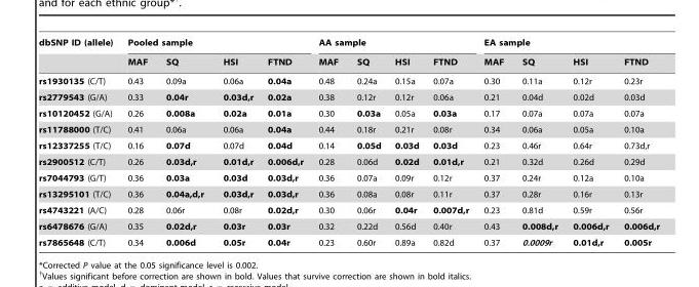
<table><thead><tr><td rowspan="2">dbSNP ID (allele)</td><td colspan="4">Pooled sample</td><td colspan="4">AA sample</td><td colspan="4">EA sample</td></tr><tr><td>MAF</td><td>SQ</td><td>HSI</td><td>FTND</td><td>MAF</td><td>SQ</td><td>HSI</td><td>FTND</td><td>MAF</td><td>SQ</td><td>HSI</td><td>FTND</td></tr></thead><tbody><tr><td>rs1930135 (C/T)</td><td>0.43</td><td>0.09a</td><td>0.06a</td><td>0.04a</td><td>0.48</td><td>0.24a</td><td>0.15a</td><td>0.07a</td><td>0.30</td><td>0.11a</td><td>0.12r</td><td>0.23r</td></tr><tr><td>rs2779543 (G/A)</td><td>0.33</td><td>0.04r</td><td>0.03d,r</td><td>0.02a</td><td>0.38</td><td>0.12r</td><td>0.12r</td><td>0.06a</td><td>0.21</td><td>0.04d</td><td>0.02d</td><td>0.03d</td></tr><tr><td>rs10120452 (G/A)</td><td>0.26</td><td>0.008a</td><td>0.02a</td><td>0.01a</td><td>0.30</td><td>0.03a</td><td>0.05a</td><td>0.03a</td><td>0.17</td><td>0.07a</td><td>0.07a</td><td>0.07a</td></tr><tr><td>rs11788000 (T/C)</td><td>0.41</td><td>0.06a</td><td>0.06a</td><td>0.04a</td><td>0.44</td><td>0.18r</td><td>0.21r</td><td>0.08r</td><td>0.34</td><td>0.06a</td><td>0.05a</td><td>0.10a</td></tr><tr><td>rs12337255 (T/C)</td><td>0.16</td><td>0.07d</td><td>0.07d</td><td>0.04d</td><td>0.14</td><td>0.05d</td><td>0.03d</td><td>0.03d</td><td>0.23</td><td>0.46r</td><td>0.64r</td><td>0.73d,r</td></tr><tr><td>rs2900512 (C/T)</td><td>0.26</td><td>0.03d,r</td><td>0.01d,r</td><td>0.006d,r</td><td>0.28</td><td>0.06d</td><td>0.02d</td><td>0.01d,r</td><td>0.21</td><td>0.32d</td><td>0.26d</td><td>0.29d</td></tr><tr><td>rs7044793 (G/T)</td><td>0.36</td><td>0.03a</td><td>0.03d</td><td>0.03d,r</td><td>0.36</td><td>0.07a</td><td>0.09r</td><td>0.12r</td><td>0.37</td><td>0.24r</td><td>0.12a</td><td>0.10a</td></tr><tr><td>rs13295101 (T/C)</td><td>0.36</td><td>0.04a,d,r</td><td>0.03d,r</td><td>0.03d,r</td><td>0.36</td><td>0.08a</td><td>0.08r</td><td>0.11r</td><td>0.37</td><td>0.28r</td><td>0.16r</td><td>0.13r</td></tr><tr><td>rs4743221 (A/C)</td><td>0.28</td><td>0.06r</td><td>0.08r</td><td>0.02d,r</td><td>0.30</td><td>0.06r</td><td>0.04r</td><td>0.007d,r</td><td>0.23</td><td>0.81d</td><td>0.59r</td><td>0.56r</td></tr><tr><td>rs6478676 (G/A)</td><td>0.35</td><td>0.02d,r</td><td>0.03r</td><td>0.03r</td><td>0.32</td><td>0.22d</td><td>0.56d</td><td>0.40r</td><td>0.43</td><td>0.008d,r</td><td>0.006d,r</td><td>0.006d,r</td></tr><tr><td>rs7865648 (C/T)</td><td>0.34</td><td>0.006d</td><td>0.05r</td><td>0.04r</td><td>0.23</td><td>0.60r</td><td>0.89a</td><td>0.82d</td><td>0.37</td><td>0.0009r</td><td>0.01d,r</td><td>0.005r</td></tr></tbody></table>